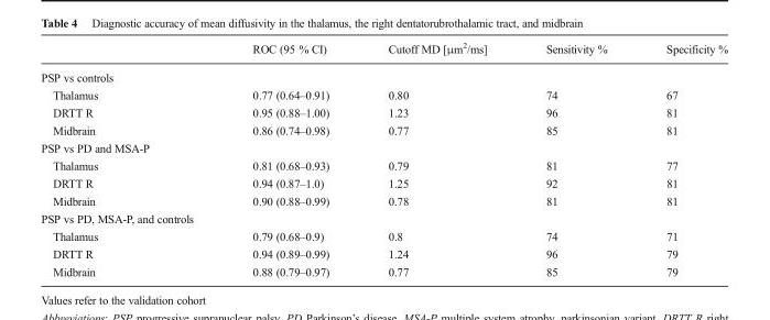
<table><thead><tr><td></td><td>ROC (95 % CI)</td><td>Cutoff MD [μm<sup>2</sup>/ms]</td><td>Sensitivity %</td><td>Specificity %</td></tr></thead><tbody><tr><td colspan="5">PSP vs controls</td></tr><tr><td>Thalamus</td><td>0.77 (0.64–0.91)</td><td>0.80</td><td>74</td><td>67</td></tr><tr><td>DRTT R</td><td>0.95 (0.88–1.00)</td><td>1.23</td><td>96</td><td>81</td></tr><tr><td>Midbrain</td><td>0.86 (0.74–0.98)</td><td>0.77</td><td>85</td><td>81</td></tr><tr><td colspan="5">PSP vs PD and MSA-P</td></tr><tr><td>Thalamus</td><td>0.81 (0.68–0.93)</td><td>0.79</td><td>81</td><td>77</td></tr><tr><td>DRTT R</td><td>0.94 (0.87–1.0)</td><td>1.25</td><td>92</td><td>81</td></tr><tr><td>Midbrain</td><td>0.90 (0.88–0.99)</td><td>0.78</td><td>81</td><td>81</td></tr><tr><td colspan="5">PSP vs PD, MSA-P, and controls</td></tr><tr><td>Thalamus</td><td>0.79 (0.68–0.9)</td><td>0.8</td><td>74</td><td>71</td></tr><tr><td>DRTT R</td><td>0.94 (0.89–0.99)</td><td>1.24</td><td>96</td><td>79</td></tr><tr><td>Midbrain</td><td>0.88 (0.79–0.97)</td><td>0.77</td><td>85</td><td>79</td></tr></tbody></table>